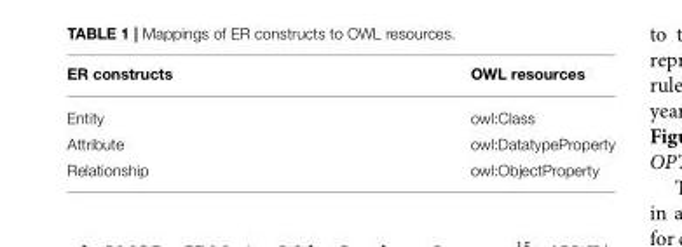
<table><thead><tr><td>ER constructs</td><td>OWL resources</td></tr></thead><tbody><tr><td>Entity</td><td>owl:Class</td></tr><tr><td>Attribute</td><td>owl:DatatypeProperty</td></tr><tr><td>Relationship</td><td>owl:ObjectProperty</td></tr></tbody></table>